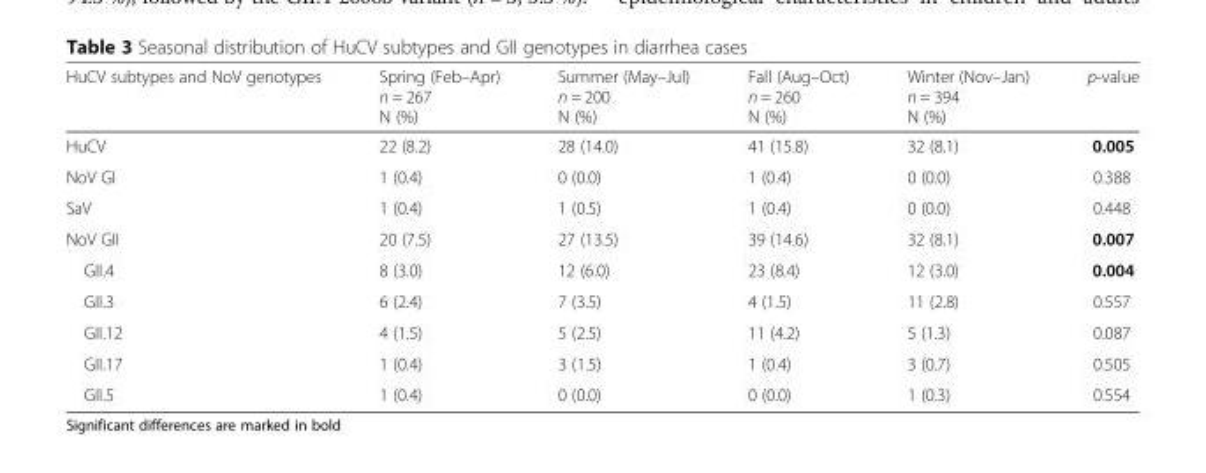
<table><thead><tr><td>HuCV subtypes and NoV genotypes</td><td>Spring (Feb–Apr) n = 267 N (%)</td><td>Summer (May–Jul) n = 200 N (%)</td><td>Fall (Aug–Oct) n = 260 N (%)</td><td>Winter (Nov–Jan) n = 394 N (%)</td><td>p-value</td></tr></thead><tbody><tr><td>HuCV</td><td>22 (8.2)</td><td>28 (14.0)</td><td>41 (15.8)</td><td>32 (8.1)</td><td>0.005</td></tr><tr><td>NoV GI</td><td>1 (0.4)</td><td>0 (0.0)</td><td>1 (0.4)</td><td>0 (0.0)</td><td>0.388</td></tr><tr><td>SaV</td><td>1 (0.4)</td><td>1 (0.5)</td><td>1 (0.4)</td><td>0 (0.0)</td><td>0.448</td></tr><tr><td>NoV GII</td><td>20 (7.5)</td><td>27 (13.5)</td><td>39 (14.6)</td><td>32 (8.1)</td><td>0.007</td></tr><tr><td>GII.4</td><td>8 (3.0)</td><td>12 (6.0)</td><td>23 (8.4)</td><td>12 (3.0)</td><td>0.004</td></tr><tr><td>GII.3</td><td>6 (2.4)</td><td>7 (3.5)</td><td>4 (1.5)</td><td>11 (2.8)</td><td>0.557</td></tr><tr><td>GII.12</td><td>4 (1.5)</td><td>5 (2.5)</td><td>11 (4.2)</td><td>5 (1.3)</td><td>0.087</td></tr><tr><td>GII.17</td><td>1 (0.4)</td><td>3 (1.5)</td><td>1 (0.4)</td><td>3 (0.7)</td><td>0.505</td></tr><tr><td>GII.5</td><td>1 (0.4)</td><td>0 (0.0)</td><td>0 (0.0)</td><td>1 (0.3)</td><td>0.554</td></tr></tbody></table>